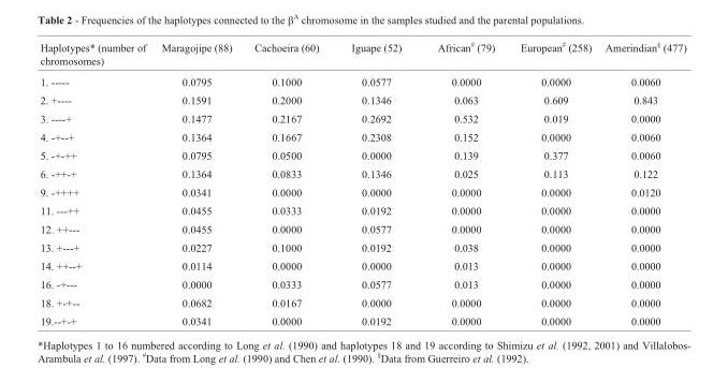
<table><thead><tr><td>Haplotypes* (number of chromosomes)</td><td>Maragojipe (88)</td><td>Cachoeira (60)</td><td>Iguape (52)</td><td>African<sup>#</sup> (79)</td><td>European<sup>#</sup> (258)</td><td>Amerindian<sup>§</sup> (477)</td></tr></thead><tbody><tr><td>1. -----</td><td>0.0795</td><td>0.1000</td><td>0.0577</td><td>0.0000</td><td>0.0000</td><td>0.0060</td></tr><tr><td>2. +----</td><td>0.1591</td><td>0.2000</td><td>0.1346</td><td>0.063</td><td>0.609</td><td>0.843</td></tr><tr><td>3. ----+</td><td>0.1477</td><td>0.2167</td><td>0.2692</td><td>0.532</td><td>0.019</td><td>0.0000</td></tr><tr><td>4. -+--+</td><td>0.1364</td><td>0.1667</td><td>0.2308</td><td>0.152</td><td>0.0000</td><td>0.0060</td></tr><tr><td>5. -+-++</td><td>0.0795</td><td>0.0500</td><td>0.0000</td><td>0.139</td><td>0.377</td><td>0.0060</td></tr><tr><td>6. -++-+</td><td>0.1364</td><td>0.0833</td><td>0.1346</td><td>0.025</td><td>0.113</td><td>0.122</td></tr><tr><td>9. -++++</td><td>0.0341</td><td>0.0000</td><td>0.0000</td><td>0.0000</td><td>0.0000</td><td>0.0120</td></tr><tr><td>11. ---++</td><td>0.0455</td><td>0.0333</td><td>0.0192</td><td>0.0000</td><td>0.0000</td><td>0.0000</td></tr><tr><td>12. ++---</td><td>0.0455</td><td>0.0000</td><td>0.0577</td><td>0.0000</td><td>0.0000</td><td>0.0000</td></tr><tr><td>13. +---+</td><td>0.0227</td><td>0.1000</td><td>0.0192</td><td>0.038</td><td>0.0000</td><td>0.0000</td></tr><tr><td>14. ++--+</td><td>0.0114</td><td>0.0000</td><td>0.0000</td><td>0.013</td><td>0.0000</td><td>0.0000</td></tr><tr><td>16. -+---</td><td>0.0000</td><td>0.0333</td><td>0.0577</td><td>0.013</td><td>0.0000</td><td>0.0000</td></tr><tr><td>18. +-+--</td><td>0.0682</td><td>0.0167</td><td>0.0000</td><td>0.0000</td><td>0.0000</td><td>0.0000</td></tr><tr><td>19.--+-+</td><td>0.0341</td><td>0.0000</td><td>0.0192</td><td>0.0000</td><td>0.0000</td><td>0.0000</td></tr></tbody></table>